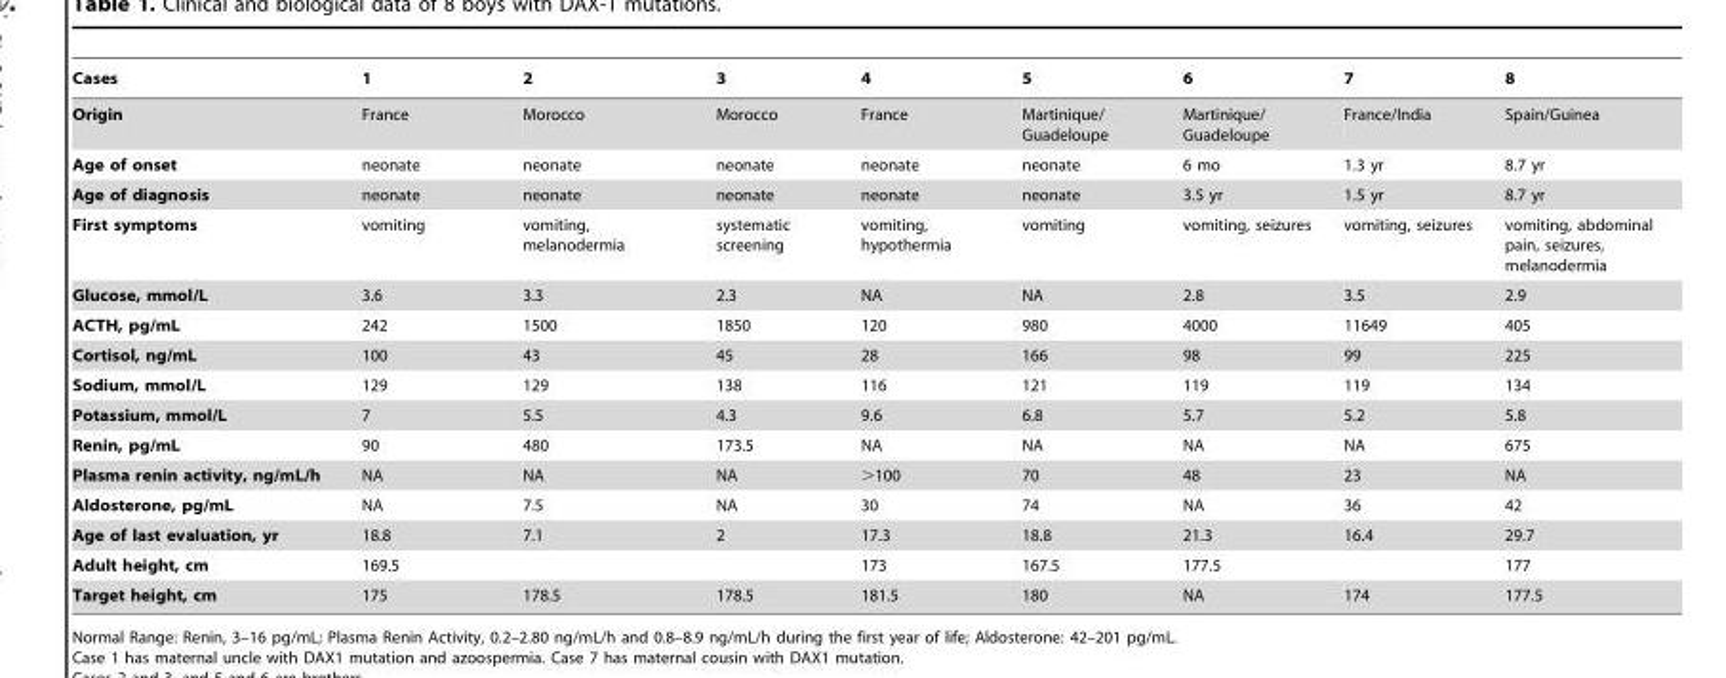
<table><thead><tr><td>Cases</td><td>1</td><td>2</td><td>3</td><td>4</td><td>5</td><td>6</td><td>7</td><td>8</td></tr></thead><tbody><tr><td>Origin</td><td>France</td><td>Morocco</td><td>Morocco</td><td>France</td><td>Martinique/ Guadeloupe</td><td>Martinique/ Guadeloupe</td><td>France/India</td><td>Spain/Guinea</td></tr><tr><td>Age of onset</td><td>neonate</td><td>neonate</td><td>neonate</td><td>neonate</td><td>neonate</td><td>6 mo</td><td>1.3 yr</td><td>8.7 yr</td></tr><tr><td>Age of diagnosis</td><td>neonate</td><td>neonate</td><td>neonate</td><td>neonate</td><td>neonate</td><td>3.5 yr</td><td>1.5 yr</td><td>8.7 yr</td></tr><tr><td>First symptoms</td><td>vomiting</td><td>vomiting, melanodermia</td><td>systematic screening</td><td>vomiting, hypothermia</td><td>vomiting</td><td>vomiting, seizures</td><td>vomiting, seizures</td><td>vomiting, abdominal pain, seizures, melanodermia</td></tr><tr><td>Glucose, mmol/L</td><td>3.6</td><td>3.3</td><td>2.3</td><td>NA</td><td>NA</td><td>2.8</td><td>3.5</td><td>2.9</td></tr><tr><td>ACTH, pg/mL</td><td>242</td><td>1500</td><td>1850</td><td>120</td><td>980</td><td>4000</td><td>11649</td><td>405</td></tr><tr><td>Cortisol, ng/mL</td><td>100</td><td>43</td><td>45</td><td>28</td><td>166</td><td>98</td><td>99</td><td>225</td></tr><tr><td>Sodium, mmol/L</td><td>129</td><td>129</td><td>138</td><td>116</td><td>121</td><td>119</td><td>119</td><td>134</td></tr><tr><td>Potassium, mmol/L</td><td>7</td><td>5.5</td><td>4.3</td><td>9.6</td><td>6.8</td><td>5.7</td><td>5.2</td><td>5.8</td></tr><tr><td>Renin, pg/mL</td><td>90</td><td>480</td><td>173.5</td><td>NA</td><td>NA</td><td>NA</td><td>NA</td><td>675</td></tr><tr><td>Plasma renin activity, ng/mL/h</td><td>NA</td><td>NA</td><td>NA</td><td>&gt;100</td><td>70</td><td>48</td><td>23</td><td>NA</td></tr><tr><td>Aldosterone, pg/mL</td><td>NA</td><td>7.5</td><td>NA</td><td>30</td><td>74</td><td>NA</td><td>36</td><td>42</td></tr><tr><td>Age of last evaluation, yr</td><td>18.8</td><td>7.1</td><td>2</td><td>17.3</td><td>18.8</td><td>21.3</td><td>16.4</td><td>29.7</td></tr><tr><td>Adult height, cm</td><td>169.5</td><td></td><td></td><td>173</td><td>167.5</td><td>177.5</td><td></td><td>177</td></tr><tr><td>Target height, cm</td><td>175</td><td>178.5</td><td>178.5</td><td>181.5</td><td>180</td><td>NA</td><td>174</td><td>177.5</td></tr></tbody></table>